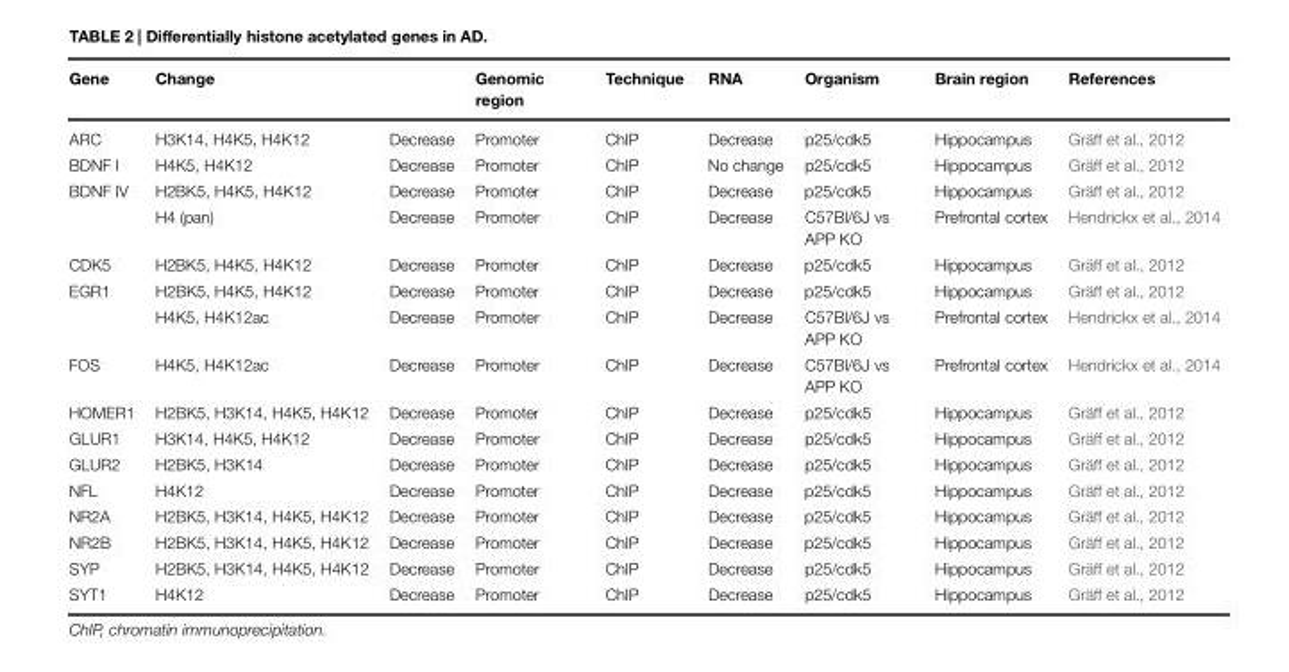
<table><thead><tr><td>Gene</td><td>Change</td><td></td><td>Genomic region</td><td>Technique</td><td>RNA</td><td>Organism</td><td>Brain region</td><td>References</td></tr></thead><tbody><tr><td>ARC</td><td>H3K14, H4K5, H4K12</td><td>Decrease</td><td>Promoter</td><td>ChIP</td><td>Decrease</td><td>p25/cdk5</td><td>Hippocampus</td><td>Gräff et al., 2012</td></tr><tr><td>BDNF I</td><td>H4K5, H4K12</td><td>Decrease</td><td>Promoter</td><td>ChIP</td><td>No change</td><td>p25/cdk5</td><td>Hippocampus</td><td>Gräff et al., 2012</td></tr><tr><td rowspan="2">BDNF IV</td><td>H2BK5, H4K5, H4K12</td><td>Decrease</td><td>Promoter</td><td>ChIP</td><td>Decrease</td><td>p25/cdk5</td><td>Hippocampus</td><td>Gräff et al., 2012</td></tr><tr><td>H4 (pan)</td><td>Decrease</td><td>Promoter</td><td>ChIP</td><td>Decrease</td><td>C57Bl/6J vs APP KO</td><td>Prefrontal cortex</td><td>Hendrickx et al., 2014</td></tr><tr><td>CDK5</td><td>H2BK5, H4K5, H4K12</td><td>Decrease</td><td>Promoter</td><td>ChIP</td><td>Decrease</td><td>p25/cdk5</td><td>Hippocampus</td><td>Gräff et al., 2012</td></tr><tr><td rowspan="2">EGR1</td><td>H2BK5, H4K5, H4K12</td><td>Decrease</td><td>Promoter</td><td>ChIP</td><td>Decrease</td><td>p25/cdk5</td><td>Hippocampus</td><td>Gräff et al., 2012</td></tr><tr><td>H4K5, H4K12ac</td><td>Decrease</td><td>Promoter</td><td>ChIP</td><td>Decrease</td><td>C57Bl/6J vs APP KO</td><td>Prefrontal cortex</td><td>Hendrickx et al., 2014</td></tr><tr><td>FOS</td><td>H4K5, H4K12ac</td><td>Decrease</td><td>Promoter</td><td>ChIP</td><td>Decrease</td><td>C57Bl/6J vs APP KO</td><td>Prefrontal cortex</td><td>Hendrickx et al., 2014</td></tr><tr><td>HOMER1</td><td>H2BK5, H3K14, H4K5, H4K12</td><td>Decrease</td><td>Promoter</td><td>ChIP</td><td>Decrease</td><td>p25/cdk5</td><td>Hippocampus</td><td>Gräff et al., 2012</td></tr><tr><td>GLUR1</td><td>H3K14, H4K5, H4K12</td><td>Decrease</td><td>Promoter</td><td>ChIP</td><td>Decrease</td><td>p25/cdk5</td><td>Hippocampus</td><td>Gräff et al., 2012</td></tr><tr><td>GLUR2</td><td>H2BK5, H3K14</td><td>Decrease</td><td>Promoter</td><td>ChIP</td><td>Decrease</td><td>p25/cdk5</td><td>Hippocampus</td><td>Gräff et al., 2012</td></tr><tr><td>NFL</td><td>H4K12</td><td>Decrease</td><td>Promoter</td><td>ChIP</td><td>Decrease</td><td>p25/cdk5</td><td>Hippocampus</td><td>Gräff et al., 2012</td></tr><tr><td>NR2A</td><td>H2BK5, H3K14, H4K5, H4K12</td><td>Decrease</td><td>Promoter</td><td>ChIP</td><td>Decrease</td><td>p25/cdk5</td><td>Hippocampus</td><td>Gräff et al., 2012</td></tr><tr><td>NR2B</td><td>H2BK5, H3K14, H4K5, H4K12</td><td>Decrease</td><td>Promoter</td><td>ChIP</td><td>Decrease</td><td>p25/cdk5</td><td>Hippocampus</td><td>Gräff et al., 2012</td></tr><tr><td>SYP</td><td>H2BK5, H3K14, H4K5, H4K12</td><td>Decrease</td><td>Promoter</td><td>ChIP</td><td>Decrease</td><td>p25/cdk5</td><td>Hippocampus</td><td>Gräff et al., 2012</td></tr><tr><td>SYT1</td><td>H4K12</td><td>Decrease</td><td>Promoter</td><td>ChIP</td><td>Decrease</td><td>p25/cdk5</td><td>Hippocampus</td><td>Gräff et al., 2012</td></tr></tbody></table>